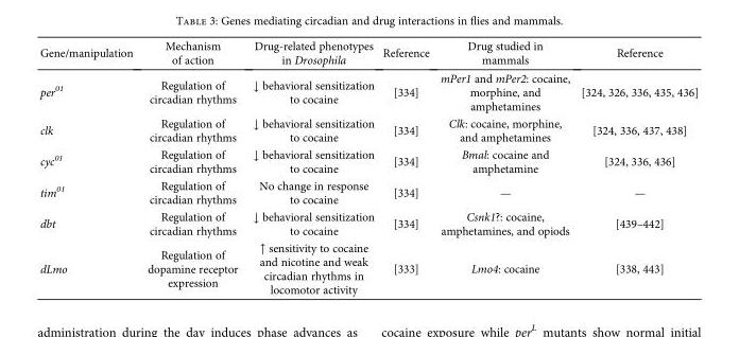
<table><thead><tr><td>Gene/manipulation</td><td>Mechanism of action</td><td>Drug-related phenotypes in Drosophila</td><td>Reference</td><td>Drug studied in mammals</td><td>Reference</td></tr></thead><tbody><tr><td>per<sup>01</sup></td><td>Regulation of circadian rhythms</td><td>↓ behavioral sensitization to cocaine</td><td>[334]</td><td>mPer1 and mPer2: cocaine, morphine, and amphetamines</td><td>[324, 326, 336, 435, 436]</td></tr><tr><td>clk</td><td>Regulation of circadian rhythms</td><td>↓ behavioral sensitization to cocaine</td><td>[334]</td><td>Clk: cocaine, morphine, and amphetamines</td><td>[324, 336, 437, 438]</td></tr><tr><td>cyc<sup>01</sup></td><td>Regulation of circadian rhythms</td><td>↓ behavioral sensitization to cocaine</td><td>[334]</td><td>Bmal: cocaine and amphetamine</td><td>[324, 336, 436]</td></tr><tr><td>tim<sup>01</sup></td><td>Regulation of circadian rhythms</td><td>No change in response to cocaine</td><td>[334]</td><td>—</td><td>—</td></tr><tr><td>dbt</td><td>Regulation of circadian rhythms</td><td>↓ behavioral sensitization to cocaine</td><td>[334]</td><td>Csnk1?: cocaine, amphetamines, and opiods</td><td>[439–442]</td></tr><tr><td>dLmo</td><td>Regulation of dopamine receptor expression</td><td>↑ sensitivity to cocaine and nicotine and weak circadian rhythms in locomotor activity</td><td>[333]</td><td>Lmo4: cocaine</td><td>[338, 443]</td></tr></tbody></table>